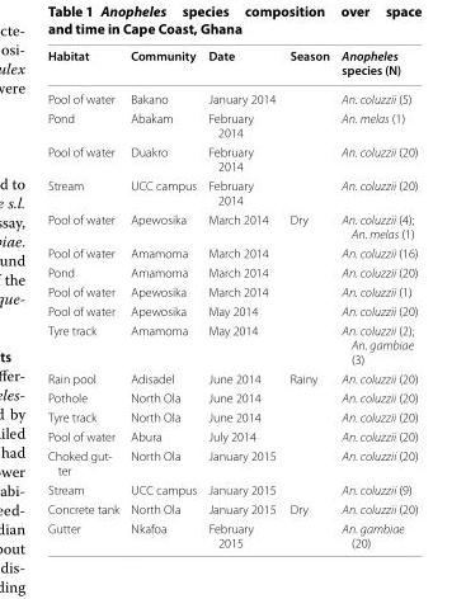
<table><thead><tr><td>Habitat</td><td>Community</td><td>Date</td><td>Season</td><td>Anopheles species (N)</td></tr></thead><tbody><tr><td>Pool of water</td><td>Bakano</td><td>January 2014</td><td></td><td>An. coluzzii (5)</td></tr><tr><td>Pond</td><td>Abakam</td><td>February 2014</td><td></td><td>An. melas (1)</td></tr><tr><td>Pool of water</td><td>Duakro</td><td>February 2014</td><td></td><td>An. coluzzii (20)</td></tr><tr><td>Stream</td><td>UCC campus</td><td>February 2014</td><td></td><td>An. coluzzii (20)</td></tr><tr><td>Pool of water</td><td>Apewosika</td><td>March 2014</td><td>Dry</td><td>An. coluzzii (4); An. melas (1)</td></tr><tr><td>Pool of water</td><td>Amamoma</td><td>March 2014</td><td></td><td>An. coluzzii (16)</td></tr><tr><td>Pond</td><td>Amamoma</td><td>March 2014</td><td></td><td>An. coluzzii (20)</td></tr><tr><td>Pool of water</td><td>Apewosika</td><td>March 2014</td><td></td><td>An. coluzzii (1)</td></tr><tr><td>Pool of water</td><td>Apewosika</td><td>May 2014</td><td></td><td>An. coluzzii (20)</td></tr><tr><td>Tyre track</td><td>Amamoma</td><td>May 2014</td><td></td><td>An. coluzzii (2); An. gambiae (3)</td></tr><tr><td>Rain pool</td><td>Adisadel</td><td>June 2014</td><td>Rainy</td><td>An. coluzzii (20)</td></tr><tr><td>Pothole</td><td>North Ola</td><td>June 2014</td><td></td><td>An. coluzzii (20)</td></tr><tr><td>Tyre track</td><td>North Ola</td><td>June 2014</td><td></td><td>An. coluzzii (20)</td></tr><tr><td>Pool of water</td><td>Abura</td><td>July 2014</td><td></td><td>An. coluzzii (20)</td></tr><tr><td>Choked gut- ter</td><td>North Ola</td><td>January 2015</td><td></td><td>An. coluzzii (20)</td></tr><tr><td>Stream</td><td>UCC campus</td><td>January 2015</td><td></td><td>An. coluzzii (9)</td></tr><tr><td>Concrete tank</td><td>North Ola</td><td>January 2015</td><td>Dry</td><td>An. coluzzii (20)</td></tr><tr><td>Gutter</td><td>Nkafoa</td><td>February 2015</td><td></td><td>An. gambiae (20)</td></tr></tbody></table>